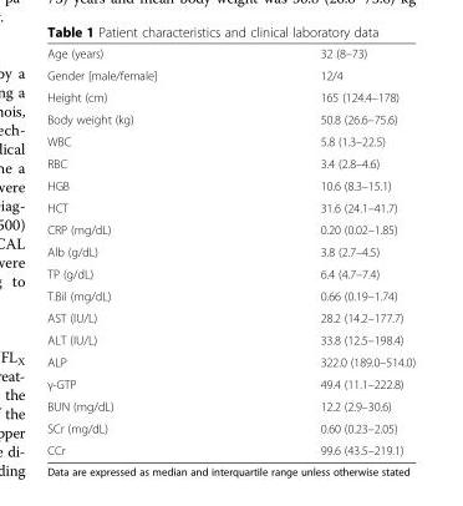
<table><tbody><tr><td>Age (years)</td><td>32 (8–73)</td></tr><tr><td>Gender [male/female]</td><td>12/4</td></tr><tr><td>Height (cm)</td><td>165 (124.4–178)</td></tr><tr><td>Body weight (kg)</td><td>50.8 (26.6–75.6)</td></tr><tr><td>WBC</td><td>5.8 (1.3–22.5)</td></tr><tr><td>RBC</td><td>3.4 (2.8–4.6)</td></tr><tr><td>HGB</td><td>10.6 (8.3–15.1)</td></tr><tr><td>HCT</td><td>31.6 (24.1–41.7)</td></tr><tr><td>CRP (mg/dL)</td><td>0.20 (0.02–1.85)</td></tr><tr><td>Alb (g/dL)</td><td>3.8 (2.7–4.5)</td></tr><tr><td>TP (g/dL)</td><td>6.4 (4.7–7.4)</td></tr><tr><td>T.Bil (mg/dL)</td><td>0.66 (0.19–1.74)</td></tr><tr><td>AST (IU/L)</td><td>28.2 (14.2–177.7)</td></tr><tr><td>ALT (IU/L)</td><td>33.8 (12.5–198.4)</td></tr><tr><td>ALP</td><td>322.0 (189.0–514.0)</td></tr><tr><td>γ-GTP</td><td>49.4 (11.1–222.8)</td></tr><tr><td>BUN (mg/dL)</td><td>12.2 (2.9–30.6)</td></tr><tr><td>SCr (mg/dL)</td><td>0.60 (0.23–2.05)</td></tr><tr><td>CCr</td><td>99.6 (43.5–219.1)</td></tr></tbody></table>